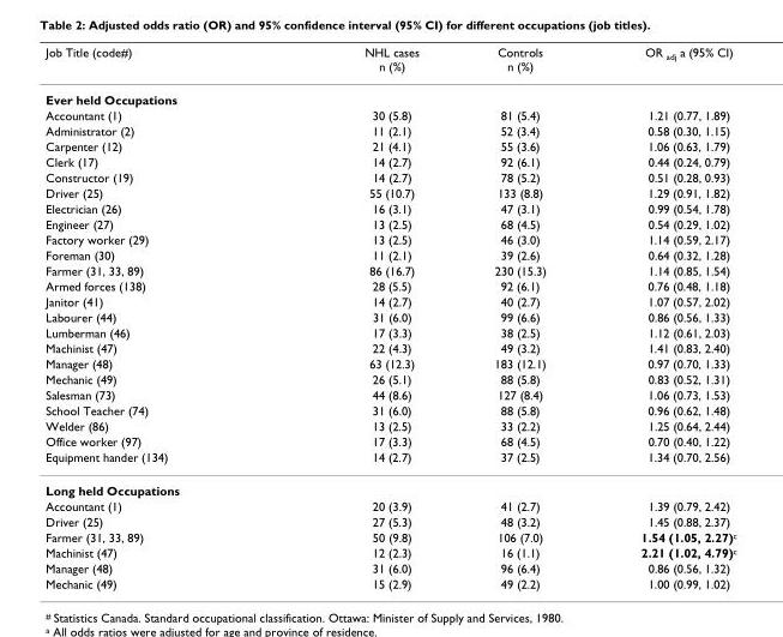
<table><thead><tr><td>Job Title (code#)</td><td>NHL cases n (%)</td><td>Controls n (%)</td><td>OR <sub>adj</sub> a (95% CI)</td></tr></thead><tbody><tr><td colspan="4">Ever held Occupations</td></tr><tr><td>Accountant (1)</td><td>30 (5.8)</td><td>81 (5.4)</td><td>1.21 (0.77, 1.89)</td></tr><tr><td>Administrator (2)</td><td>11 (2.1)</td><td>52 (3.4)</td><td>0.58 (0.30, 1.15)</td></tr><tr><td>Carpenter (12)</td><td>21 (4.1)</td><td>55 (3.6)</td><td>1.06 (0.63, 1.79)</td></tr><tr><td>Clerk (17)</td><td>14 (2.7)</td><td>92 (6.1)</td><td>0.44 (0.24, 0.79)</td></tr><tr><td>Constructor (19)</td><td>14 (2.7)</td><td>78 (5.2)</td><td>0.51 (0.28, 0.93)</td></tr><tr><td>Driver (25)</td><td>55 (10.7)</td><td>133 (8.8)</td><td>1.29 (0.91, 1.82)</td></tr><tr><td>Electrician (26)</td><td>16 (3.1)</td><td>47 (3.1)</td><td>0.99 (0.54, 1.78)</td></tr><tr><td>Engineer (27)</td><td>13 (2.5)</td><td>68 (4.5)</td><td>0.54 (0.29, 1.02)</td></tr><tr><td>Factory worker (29)</td><td>13 (2.5)</td><td>46 (3.0)</td><td>1.14 (0.59, 2.17)</td></tr><tr><td>Foreman (30)</td><td>11 (2.1)</td><td>39 (2.6)</td><td>0.64 (0.32, 1.28)</td></tr><tr><td>Farmer (31, 33, 89)</td><td>86 (16.7)</td><td>230 (15.3)</td><td>1.14 (0.85, 1.54)</td></tr><tr><td>Armed forces (138)</td><td>28 (5.5)</td><td>92 (6.1)</td><td>0.76 (0.48, 1.18)</td></tr><tr><td>Janitor (41)</td><td>14 (2.7)</td><td>40 (2.7)</td><td>1.07 (0.57, 2.02)</td></tr><tr><td>Labourer (44)</td><td>31 (6.0)</td><td>99 (6.6)</td><td>0.86 (0.56, 1.33)</td></tr><tr><td>Lumberman (46)</td><td>17 (3.3)</td><td>38 (2.5)</td><td>1.12 (0.61, 2.03)</td></tr><tr><td>Machinist (47)</td><td>22 (4.3)</td><td>49 (3.2)</td><td>1.41 (0.83, 2.40)</td></tr><tr><td>Manager (48)</td><td>63 (12.3)</td><td>183 (12.1)</td><td>0.97 (0.70, 1.33)</td></tr><tr><td>Mechanic (49)</td><td>26 (5.1)</td><td>88 (5.8)</td><td>0.83 (0.52, 1.31)</td></tr><tr><td>Salesman (73)</td><td>44 (8.6)</td><td>127 (8.4)</td><td>1.06 (0.73, 1.53)</td></tr><tr><td>School Teacher (74)</td><td>31 (6.0)</td><td>88 (5.8)</td><td>0.96 (0.62, 1.48)</td></tr><tr><td>Welder (86)</td><td>13 (2.5)</td><td>33 (2.2)</td><td>1.25 (0.64, 2.44)</td></tr><tr><td>Office worker (97)</td><td>17 (3.3)</td><td>68 (4.5)</td><td>0.70 (0.40, 1.22)</td></tr><tr><td>Equipment hander (134)</td><td>14 (2.7)</td><td>37 (2.5)</td><td>1.34 (0.70, 2.56)</td></tr><tr><td colspan="4">Long held Occupations</td></tr><tr><td>Accountant (1)</td><td>20 (3.9)</td><td>41 (2.7)</td><td>1.39 (0.79, 2.42)</td></tr><tr><td>Driver (25)</td><td>27 (5.3)</td><td>48 (3.2)</td><td>1.45 (0.88, 2.37)</td></tr><tr><td>Farmer (31, 33, 89)</td><td>50 (9.8)</td><td>106 (7.0)</td><td>1.54 (1.05, 2.27)<sup>c</sup></td></tr><tr><td>Machinist (47)</td><td>12 (2.3)</td><td>16 (1.1)</td><td>2.21 (1.02, 4.79)<sup>c</sup></td></tr><tr><td>Manager (48)</td><td>31 (6.0)</td><td>96 (6.4)</td><td>0.86 (0.56, 1.32)</td></tr><tr><td>Mechanic (49)</td><td>15 (2.9)</td><td>49 (2.2)</td><td>1.00 (0.99, 1.02)</td></tr></tbody></table>